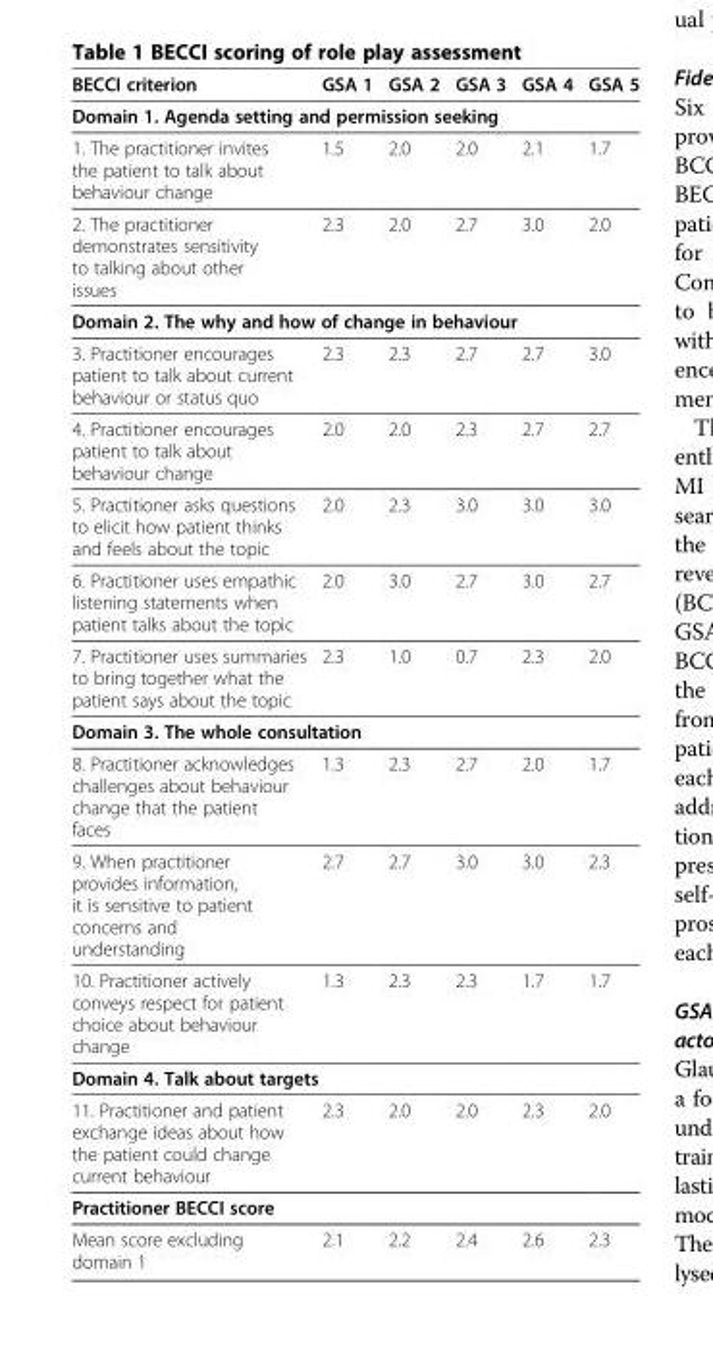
<table><thead><tr><td>BECCI criterion</td><td>GSA 1</td><td>GSA 2</td><td>GSA 3</td><td>GSA 4</td><td>GSA 5</td></tr></thead><tbody><tr><td colspan="6">Domain 1. Agenda setting and permission seeking</td></tr><tr><td>1. The practitioner invites the patient to talk about behaviour change</td><td>1.5</td><td>2.0</td><td>2.0</td><td>2.1</td><td>1.7</td></tr><tr><td>2. The practitioner demonstrates sensitivity to talking about other issues</td><td>2.3</td><td>2.0</td><td>2.7</td><td>3.0</td><td>2.0</td></tr><tr><td colspan="6">Domain 2. The why and how of change in behaviour</td></tr><tr><td>3. Practitioner encourages patient to talk about current behaviour or status quo</td><td>2.3</td><td>2.3</td><td>2.7</td><td>2.7</td><td>3.0</td></tr><tr><td>4. Practitioner encourages patient to talk about behaviour change</td><td>2.0</td><td>2.0</td><td>2.3</td><td>2.7</td><td>2.7</td></tr><tr><td>5. Practitioner asks questions to elicit how patient thinks and feels about the topic</td><td>2.0</td><td>2.3</td><td>3.0</td><td>3.0</td><td>3.0</td></tr><tr><td>6. Practitioner uses empathic listening statements when patient talks about the topic</td><td>2.0</td><td>3.0</td><td>2.7</td><td>3.0</td><td>2.7</td></tr><tr><td>7. Practitioner uses summaries to bring together what the patient says about the topic</td><td>2.3</td><td>1.0</td><td>0.7</td><td>2.3</td><td>2.0</td></tr><tr><td colspan="6">Domain 3. The whole consultation</td></tr><tr><td>8. Practitioner acknowledges challenges about behaviour change that the patient faces</td><td>1.3</td><td>2.3</td><td>2.7</td><td>2.0</td><td>1.7</td></tr><tr><td>9. When practitioner provides information, it is sensitive to patient concerns and understanding</td><td>2.7</td><td>2.7</td><td>3.0</td><td>3.0</td><td>2.3</td></tr><tr><td>10. Practitioner actively conveys respect for patient choice about behaviour change</td><td>1.3</td><td>2.3</td><td>2.3</td><td>1.7</td><td>1.7</td></tr><tr><td colspan="6">Domain 4. Talk about targets</td></tr><tr><td>11. Practitioner and patient exchange ideas about how the patient could change current behaviour</td><td>2.3</td><td>2.0</td><td>2.0</td><td>2.3</td><td>2.0</td></tr><tr><td colspan="6">Practitioner BECCI score</td></tr><tr><td>Mean score excluding domain 1</td><td>2.1</td><td>2.2</td><td>2.4</td><td>2.6</td><td>2.3</td></tr></tbody></table>